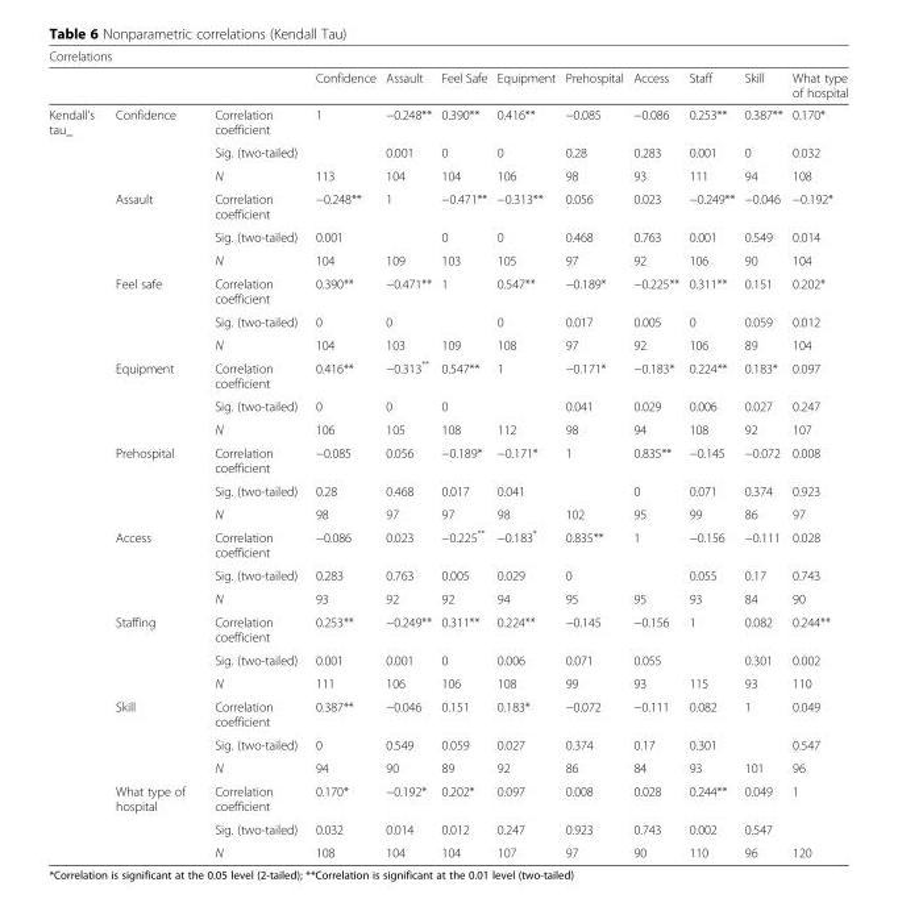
<table><thead><tr><td colspan="12">Correlations</td></tr><tr><td></td><td></td><td></td><td>Confidence</td><td>Assault</td><td>Feel Safe</td><td>Equipment</td><td>Prehospital</td><td>Access</td><td>Staff</td><td>Skill</td><td>What type of hospital</td></tr></thead><tbody><tr><td rowspan="27">Kendall’s tau_</td><td rowspan="3">Confidence</td><td>Correlation coefficient</td><td>1</td><td>−0.248**</td><td>0.390**</td><td>0.416**</td><td>−0.085</td><td>−0.086</td><td>0.253**</td><td>0.387**</td><td>0.170*</td></tr><tr><td>Sig. (two-tailed)</td><td></td><td>0.001</td><td>0</td><td>0</td><td>0.28</td><td>0.283</td><td>0.001</td><td>0</td><td>0.032</td></tr><tr><td>N</td><td>113</td><td>104</td><td>104</td><td>106</td><td>98</td><td>93</td><td>111</td><td>94</td><td>108</td></tr><tr><td rowspan="3">Assault</td><td>Correlation coefficient</td><td>−0.248**</td><td>1</td><td>−0.471**</td><td>−0.313**</td><td>0.056</td><td>0.023</td><td>−0.249**</td><td>−0.046</td><td>−0.192*</td></tr><tr><td>Sig. (two-tailed)</td><td>0.001</td><td></td><td>0</td><td>0</td><td>0.468</td><td>0.763</td><td>0.001</td><td>0.549</td><td>0.014</td></tr><tr><td>N</td><td>104</td><td>109</td><td>103</td><td>105</td><td>97</td><td>92</td><td>106</td><td>90</td><td>104</td></tr><tr><td rowspan="3">Feel safe</td><td>Correlation coefficient</td><td>0.390**</td><td>−0.471**</td><td>1</td><td>0.547**</td><td>−0.189*</td><td>−0.225**</td><td>0.311**</td><td>0.151</td><td>0.202*</td></tr><tr><td>Sig. (two-tailed)</td><td>0</td><td>0</td><td></td><td>0</td><td>0.017</td><td>0.005</td><td>0</td><td>0.059</td><td>0.012</td></tr><tr><td>N</td><td>104</td><td>103</td><td>109</td><td>108</td><td>97</td><td>92</td><td>106</td><td>89</td><td>104</td></tr><tr><td rowspan="3">Equipment</td><td>Correlation coefficient</td><td>0.416**</td><td>−0.313**</td><td>0.547**</td><td>1</td><td>−0.171*</td><td>−0.183*</td><td>0.224**</td><td>0.183*</td><td>0.097</td></tr><tr><td>Sig. (two-tailed)</td><td>0</td><td>0</td><td>0</td><td></td><td>0.041</td><td>0.029</td><td>0.006</td><td>0.027</td><td>0.247</td></tr><tr><td>N</td><td>106</td><td>105</td><td>108</td><td>112</td><td>98</td><td>94</td><td>108</td><td>92</td><td>107</td></tr><tr><td rowspan="3">Prehospital</td><td>Correlation coefficient</td><td>−0.085</td><td>0.056</td><td>−0.189*</td><td>−0.171*</td><td>1</td><td>0.835**</td><td>−0.145</td><td>−0.072</td><td>0.008</td></tr><tr><td>Sig. (two-tailed)</td><td>0.28</td><td>0.468</td><td>0.017</td><td>0.041</td><td></td><td>0</td><td>0.071</td><td>0.374</td><td>0.923</td></tr><tr><td>N</td><td>98</td><td>97</td><td>97</td><td>98</td><td>102</td><td>95</td><td>99</td><td>86</td><td>97</td></tr><tr><td rowspan="3">Access</td><td>Correlation coefficient</td><td>−0.086</td><td>0.023</td><td>−0.225**</td><td>−0.183*</td><td>0.835**</td><td>1</td><td>−0.156</td><td>−0.111</td><td>0.028</td></tr><tr><td>Sig. (two-tailed)</td><td>0.283</td><td>0.763</td><td>0.005</td><td>0.029</td><td>0</td><td></td><td>0.055</td><td>0.17</td><td>0.743</td></tr><tr><td>N</td><td>93</td><td>92</td><td>92</td><td>94</td><td>95</td><td>95</td><td>93</td><td>84</td><td>90</td></tr><tr><td rowspan="3">Staffing</td><td>Correlation coefficient</td><td>0.253**</td><td>−0.249**</td><td>0.311**</td><td>0.224**</td><td>−0.145</td><td>−0.156</td><td>1</td><td>0.082</td><td>0.244**</td></tr><tr><td>Sig. (two-tailed)</td><td>0.001</td><td>0.001</td><td>0</td><td>0.006</td><td>0.071</td><td>0.055</td><td></td><td>0.301</td><td>0.002</td></tr><tr><td>N</td><td>111</td><td>106</td><td>106</td><td>108</td><td>99</td><td>93</td><td>115</td><td>93</td><td>110</td></tr><tr><td rowspan="3">Skill</td><td>Correlation coefficient</td><td>0.387**</td><td>−0.046</td><td>0.151</td><td>0.183*</td><td>−0.072</td><td>−0.111</td><td>0.082</td><td>1</td><td>0.049</td></tr><tr><td>Sig. (two-tailed)</td><td>0</td><td>0.549</td><td>0.059</td><td>0.027</td><td>0.374</td><td>0.17</td><td>0.301</td><td></td><td>0.547</td></tr><tr><td>N</td><td>94</td><td>90</td><td>89</td><td>92</td><td>86</td><td>84</td><td>93</td><td>101</td><td>96</td></tr><tr><td rowspan="3">What type of hospital</td><td>Correlation coefficient</td><td>0.170*</td><td>−0.192*</td><td>0.202*</td><td>0.097</td><td>0.008</td><td>0.028</td><td>0.244**</td><td>0.049</td><td>1</td></tr><tr><td>Sig. (two-tailed)</td><td>0.032</td><td>0.014</td><td>0.012</td><td>0.247</td><td>0.923</td><td>0.743</td><td>0.002</td><td>0.547</td><td></td></tr><tr><td>N</td><td>108</td><td>104</td><td>104</td><td>107</td><td>97</td><td>90</td><td>110</td><td>96</td><td>120</td></tr></tbody></table>